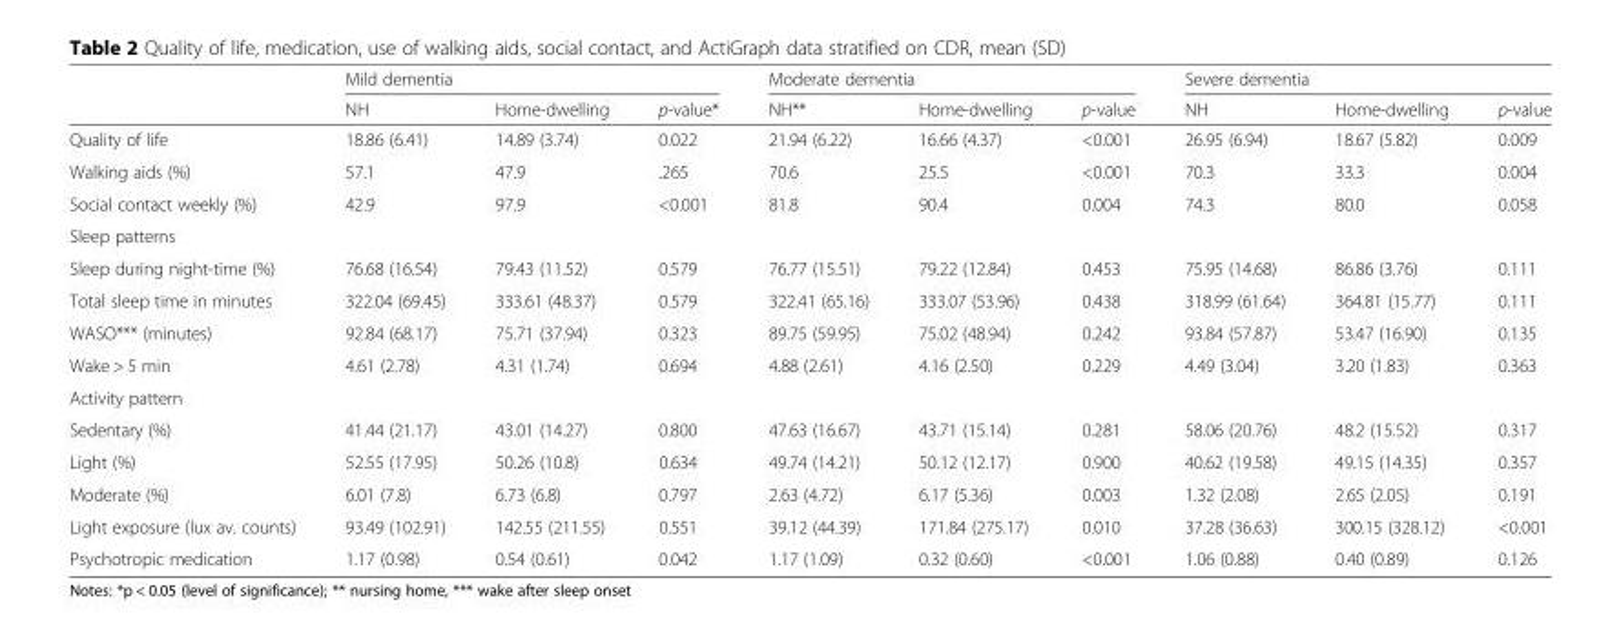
<table><thead><tr><td rowspan="2"></td><td colspan="3">Mild dementia</td><td colspan="3">Moderate dementia</td><td colspan="3">Severe dementia</td></tr><tr><td>NH</td><td>Home-dwelling</td><td>p-value*</td><td>NH**</td><td>Home-dwelling</td><td>p-value</td><td>NH</td><td>Home-dwelling</td><td>p-value</td></tr></thead><tbody><tr><td>Quality of life</td><td>18.86 (6.41)</td><td>14.89 (3.74)</td><td>0.022</td><td>21.94 (6.22)</td><td>16.66 (4.37)</td><td>&lt;0.001</td><td>26.95 (6.94)</td><td>18.67 (5.82)</td><td>0.009</td></tr><tr><td>Walking aids (%)</td><td>57.1</td><td>47.9</td><td>.265</td><td>70.6</td><td>25.5</td><td>&lt;0.001</td><td>70.3</td><td>33.3</td><td>0.004</td></tr><tr><td>Social contact weekly (%)</td><td>42.9</td><td>97.9</td><td>&lt;0.001</td><td>81.8</td><td>90.4</td><td>0.004</td><td>74.3</td><td>80.0</td><td>0.058</td></tr><tr><td colspan="10">Sleep patterns</td></tr><tr><td>Sleep during night-time (%)</td><td>76.68 (16.54)</td><td>79.43 (11.52)</td><td>0.579</td><td>76.77 (15.51)</td><td>79.22 (12.84)</td><td>0.453</td><td>75.95 (14.68)</td><td>86.86 (3.76)</td><td>0.111</td></tr><tr><td>Total sleep time in minutes</td><td>322.04 (69.45)</td><td>333.61 (48.37)</td><td>0.579</td><td>322.41 (65.16)</td><td>333.07 (53.96)</td><td>0.438</td><td>318.99 (61.64)</td><td>364.81 (15.77)</td><td>0.111</td></tr><tr><td>WASO*** (minutes)</td><td>92.84 (68.17)</td><td>75.71 (37.94)</td><td>0.323</td><td>89.75 (59.95)</td><td>75.02 (48.94)</td><td>0.242</td><td>93.84 (57.87)</td><td>53.47 (16.90)</td><td>0.135</td></tr><tr><td>Wake &gt; 5 min</td><td>4.61 (2.78)</td><td>4.31 (1.74)</td><td>0.694</td><td>4.88 (2.61)</td><td>4.16 (2.50)</td><td>0.229</td><td>4.49 (3.04)</td><td>3.20 (1.83)</td><td>0.363</td></tr><tr><td colspan="10">Activity pattern</td></tr><tr><td>Sedentary (%)</td><td>41.44 (21.17)</td><td>43.01 (14.27)</td><td>0.800</td><td>47.63 (16.67)</td><td>43.71 (15.14)</td><td>0.281</td><td>58.06 (20.76)</td><td>48.2 (15.52)</td><td>0.317</td></tr><tr><td>Light (%)</td><td>52.55 (17.95)</td><td>50.26 (10.8)</td><td>0.634</td><td>49.74 (14.21)</td><td>50.12 (12.17)</td><td>0.900</td><td>40.62 (19.58)</td><td>49.15 (14.35)</td><td>0.357</td></tr><tr><td>Moderate (%)</td><td>6.01 (7.8)</td><td>6.73 (6.8)</td><td>0.797</td><td>2.63 (4.72)</td><td>6.17 (5.36)</td><td>0.003</td><td>1.32 (2.08)</td><td>2.65 (2.05)</td><td>0.191</td></tr><tr><td>Light exposure (lux av. counts)</td><td>93.49 (102.91)</td><td>142.55 (211.55)</td><td>0.551</td><td>39.12 (44.39)</td><td>171.84 (275.17)</td><td>0.010</td><td>37.28 (36.63)</td><td>300.15 (328.12)</td><td>&lt;0.001</td></tr><tr><td>Psychotropic medication</td><td>1.17 (0.98)</td><td>0.54 (0.61)</td><td>0.042</td><td>1.17 (1.09)</td><td>0.32 (0.60)</td><td>&lt;0.001</td><td>1.06 (0.88)</td><td>0.40 (0.89)</td><td>0.126</td></tr></tbody></table>